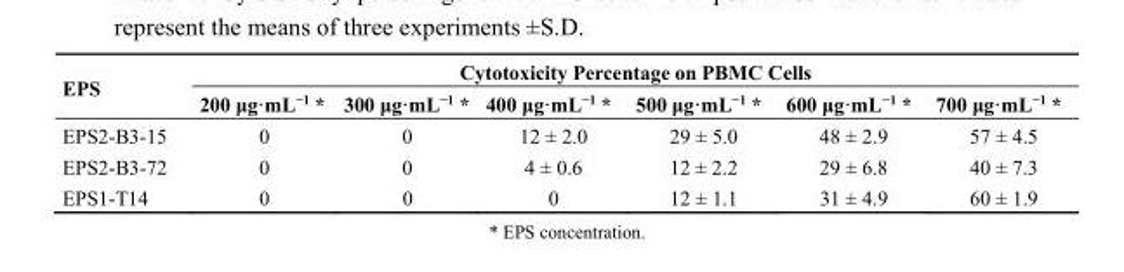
<table><thead><tr><td rowspan="2">EPS</td><td colspan="6">Cytotoxicity Percentage on PBMC Cells</td></tr><tr><td>200 μg·mL<sup>−1</sup> *</td><td>300 μg·mL<sup>−1</sup> *</td><td>400 μg·mL<sup>−1</sup> *</td><td>500 μg·mL<sup>−1</sup> *</td><td>600 μg·mL<sup>−1</sup> *</td><td>700 μg·mL<sup>−1</sup> *</td></tr></thead><tbody><tr><td>EPS2-B3-15</td><td>0</td><td>0</td><td>12 ± 2.0</td><td>29 ± 5.0</td><td>48 ± 2.9</td><td>57 ± 4.5</td></tr><tr><td>EPS2-B3-72</td><td>0</td><td>0</td><td>4 ± 0.6</td><td>12 ± 2.2</td><td>29 ± 6.8</td><td>40 ± 7.3</td></tr><tr><td>EPS1-T14</td><td>0</td><td>0</td><td>0</td><td>12 ± 1.1</td><td>31 ± 4.9</td><td>60 ± 1.9</td></tr></tbody></table>